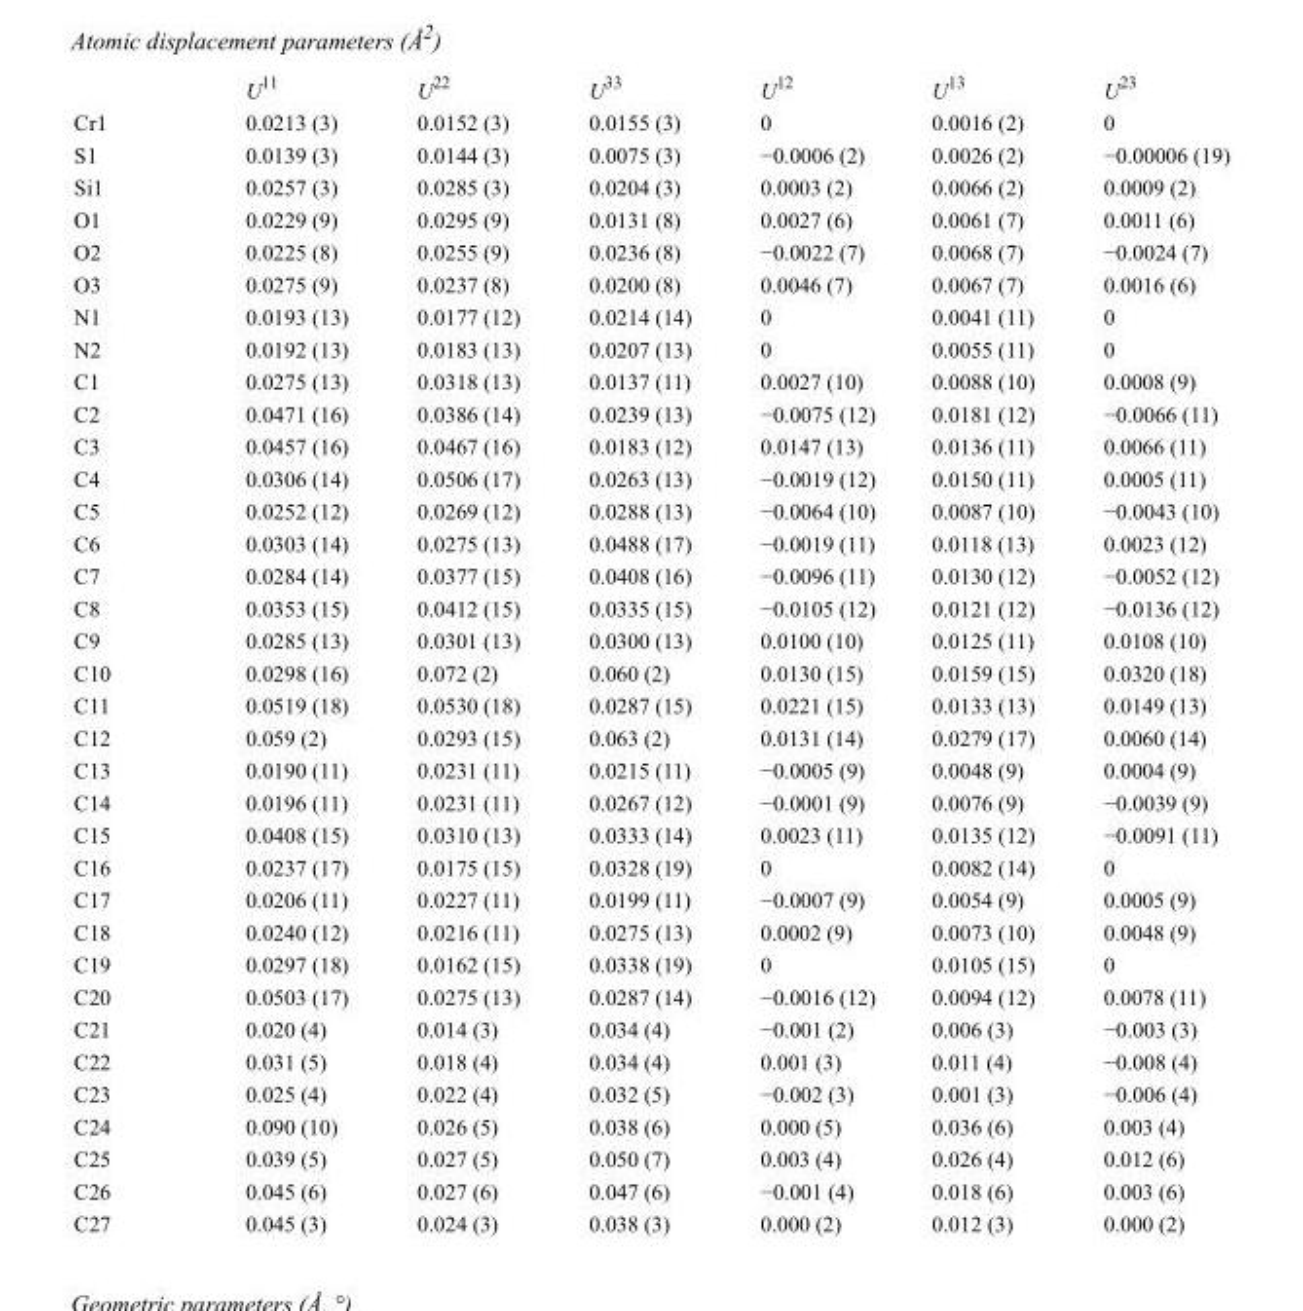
<table><thead><tr><td></td><td>U<sup>11</sup></td><td>U<sup>22</sup></td><td>U<sup>33</sup></td><td>U<sup>12</sup></td><td>U<sup>13</sup></td><td>U<sup>23</sup></td></tr></thead><tbody><tr><td>Cr1</td><td>0.0213 (3)</td><td>0.0152 (3)</td><td>0.0155 (3)</td><td>0</td><td>0.0016 (2)</td><td>0</td></tr><tr><td>S1</td><td>0.0139 (3)</td><td>0.0144 (3)</td><td>0.0075 (3)</td><td>−0.0006 (2)</td><td>0.0026 (2)</td><td>−0.00006 (19)</td></tr><tr><td>Si1</td><td>0.0257 (3)</td><td>0.0285 (3)</td><td>0.0204 (3)</td><td>0.0003 (2)</td><td>0.0066 (2)</td><td>0.0009 (2)</td></tr><tr><td>O1</td><td>0.0229 (9)</td><td>0.0295 (9)</td><td>0.0131 (8)</td><td>0.0027 (6)</td><td>0.0061 (7)</td><td>0.0011 (6)</td></tr><tr><td>O2</td><td>0.0225 (8)</td><td>0.0255 (9)</td><td>0.0236 (8)</td><td>−0.0022 (7)</td><td>0.0068 (7)</td><td>−0.0024 (7)</td></tr><tr><td>O3</td><td>0.0275 (9)</td><td>0.0237 (8)</td><td>0.0200 (8)</td><td>0.0046 (7)</td><td>0.0067 (7)</td><td>0.0016 (6)</td></tr><tr><td>N1</td><td>0.0193 (13)</td><td>0.0177 (12)</td><td>0.0214 (14)</td><td>0</td><td>0.0041 (11)</td><td>0</td></tr><tr><td>N2</td><td>0.0192 (13)</td><td>0.0183 (13)</td><td>0.0207 (13)</td><td>0</td><td>0.0055 (11)</td><td>0</td></tr><tr><td>C1</td><td>0.0275 (13)</td><td>0.0318 (13)</td><td>0.0137 (11)</td><td>0.0027 (10)</td><td>0.0088 (10)</td><td>0.0008 (9)</td></tr><tr><td>C2</td><td>0.0471 (16)</td><td>0.0386 (14)</td><td>0.0239 (13)</td><td>−0.0075 (12)</td><td>0.0181 (12)</td><td>−0.0066 (11)</td></tr><tr><td>C3</td><td>0.0457 (16)</td><td>0.0467 (16)</td><td>0.0183 (12)</td><td>0.0147 (13)</td><td>0.0136 (11)</td><td>0.0066 (11)</td></tr><tr><td>C4</td><td>0.0306 (14)</td><td>0.0506 (17)</td><td>0.0263 (13)</td><td>−0.0019 (12)</td><td>0.0150 (11)</td><td>0.0005 (11)</td></tr><tr><td>C5</td><td>0.0252 (12)</td><td>0.0269 (12)</td><td>0.0288 (13)</td><td>−0.0064 (10)</td><td>0.0087 (10)</td><td>−0.0043 (10)</td></tr><tr><td>C6</td><td>0.0303 (14)</td><td>0.0275 (13)</td><td>0.0488 (17)</td><td>−0.0019 (11)</td><td>0.0118 (13)</td><td>0.0023 (12)</td></tr><tr><td>C7</td><td>0.0284 (14)</td><td>0.0377 (15)</td><td>0.0408 (16)</td><td>−0.0096 (11)</td><td>0.0130 (12)</td><td>−0.0052 (12)</td></tr><tr><td>C8</td><td>0.0353 (15)</td><td>0.0412 (15)</td><td>0.0335 (15)</td><td>−0.0105 (12)</td><td>0.0121 (12)</td><td>−0.0136 (12)</td></tr><tr><td>C9</td><td>0.0285 (13)</td><td>0.0301 (13)</td><td>0.0300 (13)</td><td>0.0100 (10)</td><td>0.0125 (11)</td><td>0.0108 (10)</td></tr><tr><td>C10</td><td>0.0298 (16)</td><td>0.072 (2)</td><td>0.060 (2)</td><td>0.0130 (15)</td><td>0.0159 (15)</td><td>0.0320 (18)</td></tr><tr><td>C11</td><td>0.0519 (18)</td><td>0.0530 (18)</td><td>0.0287 (15)</td><td>0.0221 (15)</td><td>0.0133 (13)</td><td>0.0149 (13)</td></tr><tr><td>C12</td><td>0.059 (2)</td><td>0.0293 (15)</td><td>0.063 (2)</td><td>0.0131 (14)</td><td>0.0279 (17)</td><td>0.0060 (14)</td></tr><tr><td>C13</td><td>0.0190 (11)</td><td>0.0231 (11)</td><td>0.0215 (11)</td><td>−0.0005 (9)</td><td>0.0048 (9)</td><td>0.0004 (9)</td></tr><tr><td>C14</td><td>0.0196 (11)</td><td>0.0231 (11)</td><td>0.0267 (12)</td><td>−0.0001 (9)</td><td>0.0076 (9)</td><td>−0.0039 (9)</td></tr><tr><td>C15</td><td>0.0408 (15)</td><td>0.0310 (13)</td><td>0.0333 (14)</td><td>0.0023 (11)</td><td>0.0135 (12)</td><td>−0.0091 (11)</td></tr><tr><td>C16</td><td>0.0237 (17)</td><td>0.0175 (15)</td><td>0.0328 (19)</td><td>0</td><td>0.0082 (14)</td><td>0</td></tr><tr><td>C17</td><td>0.0206 (11)</td><td>0.0227 (11)</td><td>0.0199 (11)</td><td>−0.0007 (9)</td><td>0.0054 (9)</td><td>0.0005 (9)</td></tr><tr><td>C18</td><td>0.0240 (12)</td><td>0.0216 (11)</td><td>0.0275 (13)</td><td>0.0002 (9)</td><td>0.0073 (10)</td><td>0.0048 (9)</td></tr><tr><td>C19</td><td>0.0297 (18)</td><td>0.0162 (15)</td><td>0.0338 (19)</td><td>0</td><td>0.0105 (15)</td><td>0</td></tr><tr><td>C20</td><td>0.0503 (17)</td><td>0.0275 (13)</td><td>0.0287 (14)</td><td>−0.0016 (12)</td><td>0.0094 (12)</td><td>0.0078 (11)</td></tr><tr><td>C21</td><td>0.020 (4)</td><td>0.014 (3)</td><td>0.034 (4)</td><td>−0.001 (2)</td><td>0.006 (3)</td><td>−0.003 (3)</td></tr><tr><td>C22</td><td>0.031 (5)</td><td>0.018 (4)</td><td>0.034 (4)</td><td>0.001 (3)</td><td>0.011 (4)</td><td>−0.008 (4)</td></tr><tr><td>C23</td><td>0.025 (4)</td><td>0.022 (4)</td><td>0.032 (5)</td><td>−0.002 (3)</td><td>0.001 (3)</td><td>−0.006 (4)</td></tr><tr><td>C24</td><td>0.090 (10)</td><td>0.026 (5)</td><td>0.038 (6)</td><td>0.000 (5)</td><td>0.036 (6)</td><td>0.003 (4)</td></tr><tr><td>C25</td><td>0.039 (5)</td><td>0.027 (5)</td><td>0.050 (7)</td><td>0.003 (4)</td><td>0.026 (4)</td><td>0.012 (6)</td></tr><tr><td>C26</td><td>0.045 (6)</td><td>0.027 (6)</td><td>0.047 (6)</td><td>−0.001 (4)</td><td>0.018 (6)</td><td>0.003 (6)</td></tr><tr><td>C27</td><td>0.045 (3)</td><td>0.024 (3)</td><td>0.038 (3)</td><td>0.000 (2)</td><td>0.012 (3)</td><td>0.000 (2)</td></tr></tbody></table>